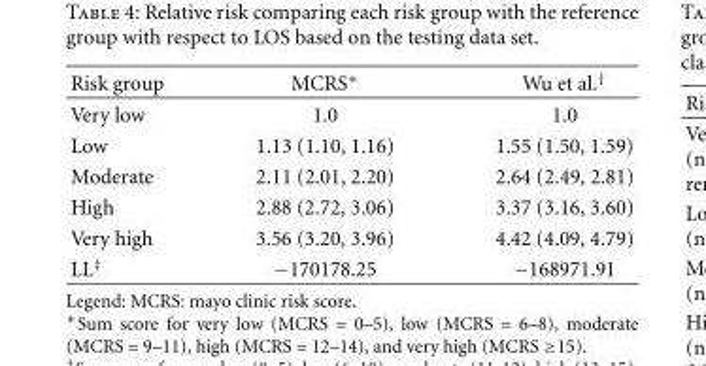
<table><thead><tr><td>Risk group</td><td>MCRS∗</td><td>Wu et al.<sup>†</sup></td></tr></thead><tbody><tr><td>Very low</td><td>1.0</td><td>1.0</td></tr><tr><td>Low</td><td>1.13 (1.10, 1.16)</td><td>1.55 (1.50, 1.59)</td></tr><tr><td>Moderate</td><td>2.11 (2.01, 2.20)</td><td>2.64 (2.49, 2.81)</td></tr><tr><td>High</td><td>2.88 (2.72, 3.06)</td><td>3.37 (3.16, 3.60)</td></tr><tr><td>Very high</td><td>3.56 (3.20, 3.96)</td><td>4.42 (4.09, 4.79)</td></tr><tr><td>LL<sup>‡</sup></td><td>−170178.25</td><td>−168971.91</td></tr></tbody></table>